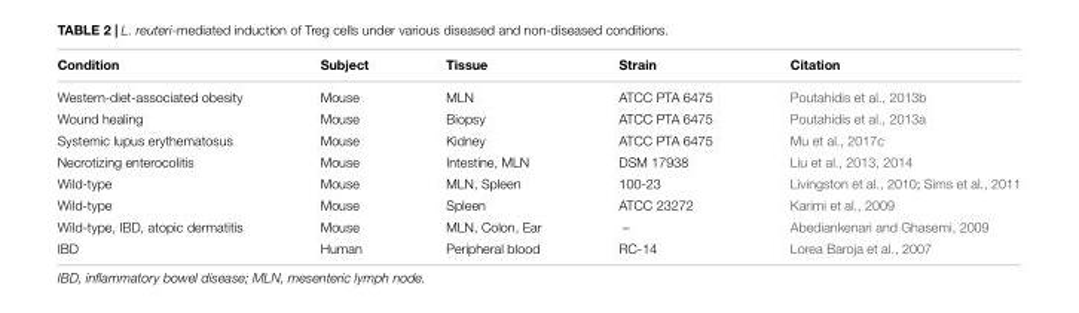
<table><thead><tr><td>Condition</td><td>Subject</td><td>Tissue</td><td>Strain</td><td>Citation</td></tr></thead><tbody><tr><td>Western-diet-associated obesity</td><td>Mouse</td><td>MLN</td><td>ATCC PTA 6475</td><td>Poutahidis et al., 2013b</td></tr><tr><td>Wound healing</td><td>Mouse</td><td>Biopsy</td><td>ATCC PTA 6475</td><td>Poutahidis et al., 2013a</td></tr><tr><td>Systemic lupus erythematosus</td><td>Mouse</td><td>Kidney</td><td>ATCC PTA 6475</td><td>Mu et al., 2017c</td></tr><tr><td>Necrotizing enterocolitis</td><td>Mouse</td><td>Intestine, MLN</td><td>DSM 17938</td><td>Liu et al., 2013, 2014</td></tr><tr><td>Wild-type</td><td>Mouse</td><td>MLN, Spleen</td><td>100-23</td><td>Livingston et al., 2010; Sims et al., 2011</td></tr><tr><td>Wild-type</td><td>Mouse</td><td>Spleen</td><td>ATCC 23272</td><td>Karimi et al., 2009</td></tr><tr><td>Wild-type, IBD, atopic dermatitis</td><td>Mouse</td><td>MLN, Colon, Ear</td><td>–</td><td>Abediankenari and Ghasemi, 2009</td></tr><tr><td>IBD</td><td>Human</td><td>Peripheral blood</td><td>RC-14</td><td>Lorea Baroja et al., 2007</td></tr></tbody></table>